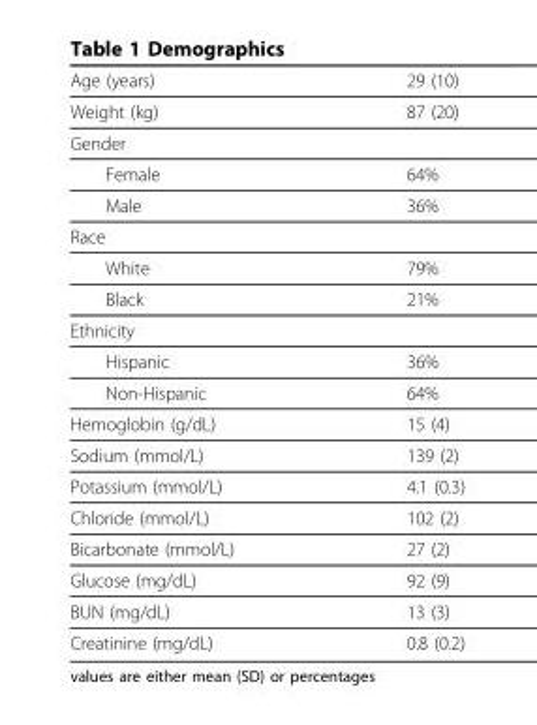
<table><thead><tr><td>Age (years)</td><td>29 (10)</td></tr></thead><tbody><tr><td>Weight (kg)</td><td>87 (20)</td></tr><tr><td colspan="2">Gender</td></tr><tr><td>Female</td><td>64%</td></tr><tr><td>Male</td><td>36%</td></tr><tr><td colspan="2">Race</td></tr><tr><td>White</td><td>79%</td></tr><tr><td>Black</td><td>21%</td></tr><tr><td colspan="2">Ethnicity</td></tr><tr><td>Hispanic</td><td>36%</td></tr><tr><td>Non-Hispanic</td><td>64%</td></tr><tr><td>Hemoglobin (g/dL)</td><td>15 (4)</td></tr><tr><td>Sodium (mmol/L)</td><td>139 (2)</td></tr><tr><td>Potassium (mmol/L)</td><td>4.1 (0.3)</td></tr><tr><td>Chloride (mmol/L)</td><td>102 (2)</td></tr><tr><td>Bicarbonate (mmol/L)</td><td>27 (2)</td></tr><tr><td>Glucose (mg/dL)</td><td>92 (9)</td></tr><tr><td>BUN (mg/dL)</td><td>13 (3)</td></tr><tr><td>Creatinine (mg/dL)</td><td>0.8 (0.2)</td></tr></tbody></table>